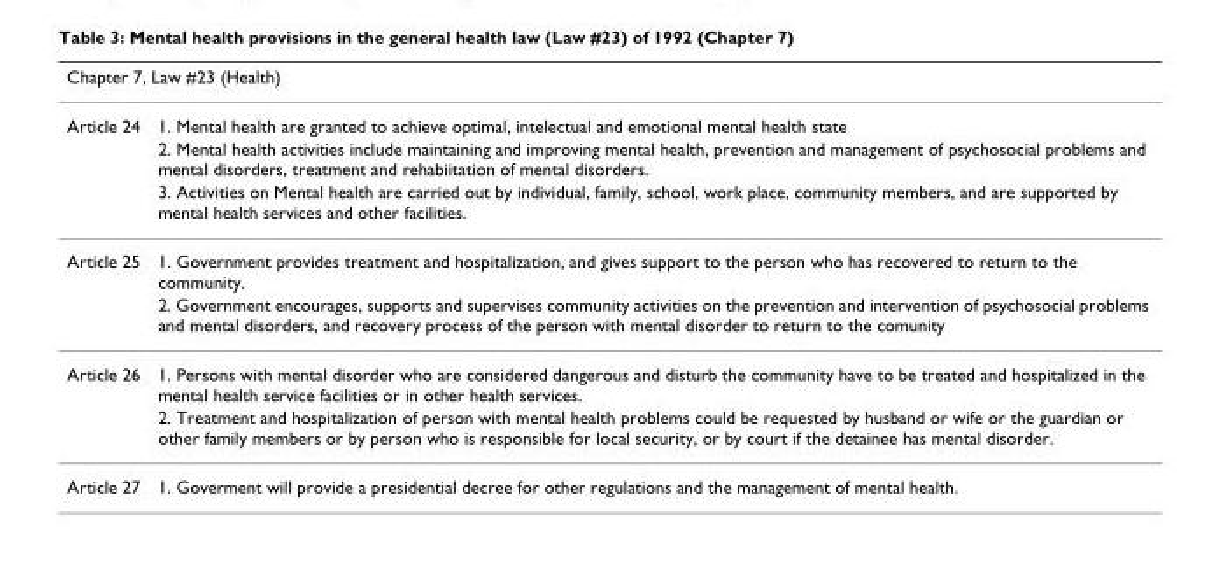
<table><thead><tr><td colspan="2">Chapter 7, Law #23 (Health)</td></tr><tr><td>Article 24</td><td>1. Mental health are granted to achieve optimal, intelectual and emotional mental health state</td></tr></thead><tbody><tr><td></td><td>2. Mental health activities include maintaining and improving mental health, prevention and management of psychosocial problems and mental disorders, treatment and rehabiitation of mental disorders.</td></tr><tr><td></td><td>3. Activities on Mental health are carried out by individual, family, school, work place, community members, and are supported by mental health services and other facilities.</td></tr><tr><td rowspan="2">Article 25</td><td>1. Government provides treatment and hospitalization, and gives support to the person who has recovered to return to the community.</td></tr><tr><td>2. Government encourages, supports and supervises community activities on the prevention and intervention of psychosocial problems and mental disorders, and recovery process of the person with mental disorder to return to the comunity</td></tr><tr><td rowspan="2">Article 26</td><td>1. Persons with mental disorder who are considered dangerous and disturb the community have to be treated and hospitalized in the mental health service facilities or in other health services.</td></tr><tr><td>2. Treatment and hospitalization of person with mental health problems could be requested by husband or wife or the guardian or other family members or by person who is responsible for local security, or by court if the detainee has mental disorder.</td></tr><tr><td>Article 27</td><td>1. Goverment will provide a presidential decree for other regulations and the management of mental health.</td></tr></tbody></table>